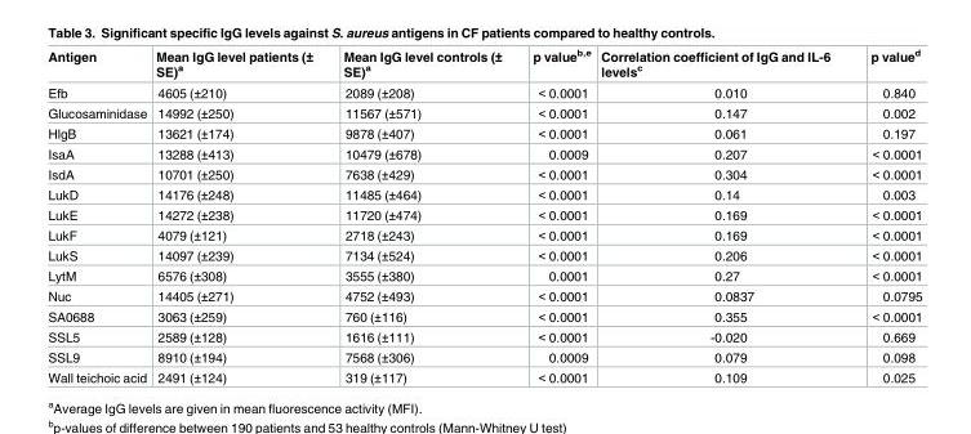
<table><thead><tr><td>Antigen</td><td>Mean IgG level patients (± SE)<sup>a</sup></td><td>Mean IgG level controls (± SE)<sup>a</sup></td><td>p value<sup>b,e</sup></td><td>Correlation coefficient of IgG and IL-6 levels<sup>c</sup></td><td>p value<sup>d</sup></td></tr></thead><tbody><tr><td>Efb</td><td>4605 (±210)</td><td>2089 (±208)</td><td>&lt; 0.0001</td><td>0.010</td><td>0.840</td></tr><tr><td>Glucosaminidase</td><td>14992 (±250)</td><td>11567 (±571)</td><td>&lt; 0.0001</td><td>0.147</td><td>0.002</td></tr><tr><td>HlgB</td><td>13621 (±174)</td><td>9878 (±407)</td><td>&lt; 0.0001</td><td>0.061</td><td>0.197</td></tr><tr><td>IsaA</td><td>13288 (±413)</td><td>10479 (±678)</td><td>0.0009</td><td>0.207</td><td>&lt; 0.0001</td></tr><tr><td>IsdA</td><td>10701 (±250)</td><td>7638 (±429)</td><td>&lt; 0.0001</td><td>0.304</td><td>&lt; 0.0001</td></tr><tr><td>LukD</td><td>14176 (±248)</td><td>11485 (±464)</td><td>&lt; 0.0001</td><td>0.14</td><td>0.003</td></tr><tr><td>LukE</td><td>14272 (±238)</td><td>11720 (±474)</td><td>&lt; 0.0001</td><td>0.169</td><td>&lt; 0.0001</td></tr><tr><td>LukF</td><td>4079 (±121)</td><td>2718 (±243)</td><td>&lt; 0.0001</td><td>0.169</td><td>&lt; 0.0001</td></tr><tr><td>LukS</td><td>14097 (±239)</td><td>7134 (±524)</td><td>&lt; 0.0001</td><td>0.206</td><td>&lt; 0.0001</td></tr><tr><td>LytM</td><td>6576 (±308)</td><td>3555 (±380)</td><td>0.0001</td><td>0.27</td><td>&lt; 0.0001</td></tr><tr><td>Nuc</td><td>14405 (±271)</td><td>4752 (±493)</td><td>&lt; 0.0001</td><td>0.0837</td><td>0.0795</td></tr><tr><td>SA0688</td><td>3063 (±259)</td><td>760 (±116)</td><td>&lt; 0.0001</td><td>0.355</td><td>&lt; 0.0001</td></tr><tr><td>SSL5</td><td>2589 (±128)</td><td>1616 (±111)</td><td>&lt; 0.0001</td><td>-0.020</td><td>0.669</td></tr><tr><td>SSL9</td><td>8910 (±194)</td><td>7568 (±306)</td><td>0.0009</td><td>0.079</td><td>0.098</td></tr><tr><td>Wall teichoic acid</td><td>2491 (±124)</td><td>319 (±117)</td><td>&lt; 0.0001</td><td>0.109</td><td>0.025</td></tr></tbody></table>